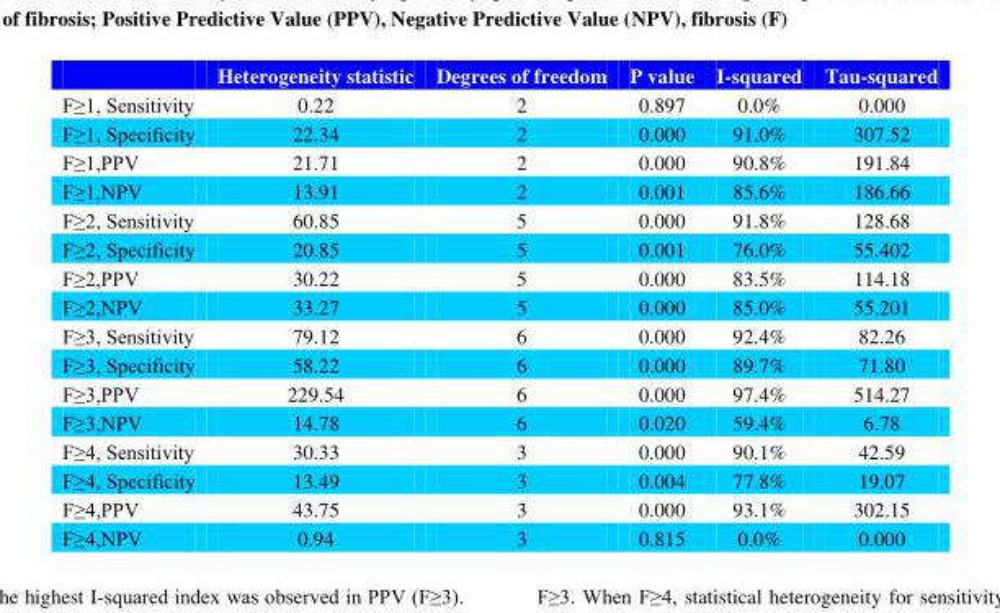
<table><thead><tr><td></td><td>Heterogeneity statistic</td><td>Degrees of freedom</td><td>P value</td><td>I-squared</td><td>Tau-squared</td></tr></thead><tbody><tr><td>F≥1, Sensitivity</td><td>0.22</td><td>2</td><td>0.897</td><td>0.0%</td><td>0.000</td></tr><tr><td>F≥1, Specificity</td><td>22.34</td><td>2</td><td>0.000</td><td>91.0%</td><td>307.52</td></tr><tr><td>F≥1,PPV</td><td>21.71</td><td>2</td><td>0.000</td><td>90.8%</td><td>191.84</td></tr><tr><td>F≥1,NPV</td><td>13.91</td><td>2</td><td>0.001</td><td>85.6%</td><td>186.66</td></tr><tr><td>F≥2, Sensitivity</td><td>60.85</td><td>5</td><td>0.000</td><td>91.8%</td><td>128.68</td></tr><tr><td>F≥2, Specificity</td><td>20.85</td><td>5</td><td>0.001</td><td>76.0%</td><td>55.402</td></tr><tr><td>F≥2,PPV</td><td>30.22</td><td>5</td><td>0.000</td><td>83.5%</td><td>114.18</td></tr><tr><td>F≥2,NPV</td><td>33.27</td><td>5</td><td>0.000</td><td>85.0%</td><td>55.201</td></tr><tr><td>F≥3, Sensitivity</td><td>79.12</td><td>6</td><td>0.000</td><td>92.4%</td><td>82.26</td></tr><tr><td>F≥3, Specificity</td><td>58.22</td><td>6</td><td>0.000</td><td>89.7%</td><td>71.80</td></tr><tr><td>F≥3,PPV</td><td>229.54</td><td>6</td><td>0.000</td><td>97.4%</td><td>514.27</td></tr><tr><td>F≥3,NPV</td><td>14.78</td><td>6</td><td>0.020</td><td>59.4%</td><td>6.78</td></tr><tr><td>F≥4, Sensitivity</td><td>30.33</td><td>3</td><td>0.000</td><td>90.1%</td><td>42.59</td></tr><tr><td>F≥4, Specificity</td><td>13.49</td><td>3</td><td>0.004</td><td>77.8%</td><td>19.07</td></tr><tr><td>F≥4,PPV</td><td>43.75</td><td>3</td><td>0.000</td><td>93.1%</td><td>302.15</td></tr><tr><td>F≥4,NPV</td><td>0.94</td><td>3</td><td>0.815</td><td>0.0%</td><td>0.000</td></tr></tbody></table>